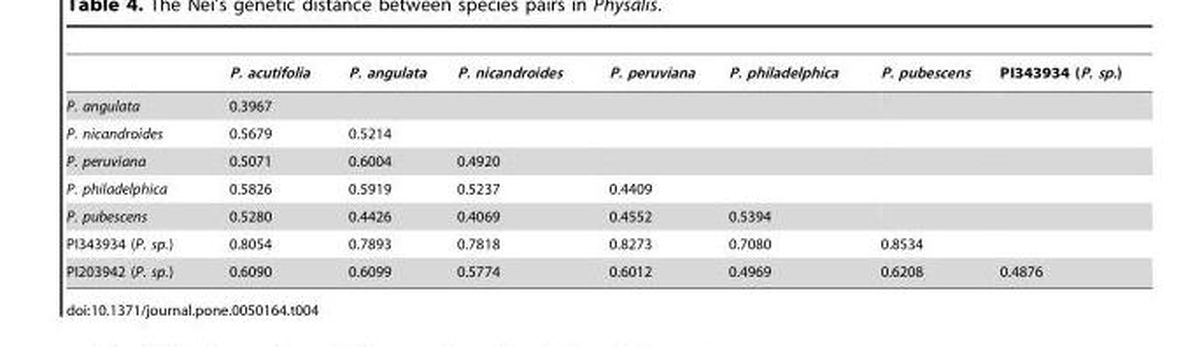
<table><thead><tr><td></td><td>P. acutifolia</td><td>P. angulata</td><td>P. nicandroides</td><td>P. peruviana</td><td>P. philadelphica</td><td>P. pubescens</td><td>PI343934 (P. sp.)</td></tr></thead><tbody><tr><td>P. angulata</td><td>0.3967</td><td></td><td></td><td></td><td></td><td></td><td></td></tr><tr><td>P. nicandroides</td><td>0.5679</td><td>0.5214</td><td></td><td></td><td></td><td></td><td></td></tr><tr><td>P. peruviana</td><td>0.5071</td><td>0.6004</td><td>0.4920</td><td></td><td></td><td></td><td></td></tr><tr><td>P. philadelphica</td><td>0.5826</td><td>0.5919</td><td>0.5237</td><td>0.4409</td><td></td><td></td><td></td></tr><tr><td>P. pubescens</td><td>0.5280</td><td>0.4426</td><td>0.4069</td><td>0.4552</td><td>0.5394</td><td></td><td></td></tr><tr><td>PI343934 (P. sp.)</td><td>0.8054</td><td>0.7893</td><td>0.7818</td><td>0.8273</td><td>0.7080</td><td>0.8534</td><td></td></tr><tr><td>PI203942 (P. sp.)</td><td>0.6090</td><td>0.6099</td><td>0.5774</td><td>0.6012</td><td>0.4969</td><td>0.6208</td><td>0.4876</td></tr></tbody></table>